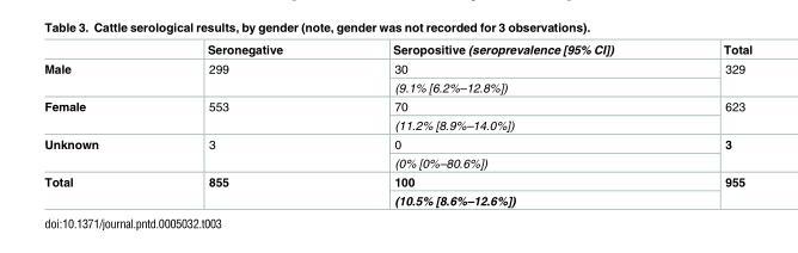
<table><thead><tr><td></td><td>Seronegative</td><td>Seropositive (seroprevalence [95% CI])</td><td>Total</td></tr></thead><tbody><tr><td rowspan="2">Male</td><td rowspan="2">299</td><td>30</td><td rowspan="2">329</td></tr><tr><td>(9.1% [6.2%–12.8%])</td></tr><tr><td rowspan="2">Female</td><td rowspan="2">553</td><td>70</td><td rowspan="2">623</td></tr><tr><td>(11.2% [8.9%–14.0%])</td></tr><tr><td rowspan="2">Unknown</td><td rowspan="2">3</td><td>0</td><td rowspan="2">3</td></tr><tr><td>(0% [0%–80.6%])</td></tr><tr><td rowspan="2">Total</td><td rowspan="2">855</td><td>100</td><td rowspan="2">955</td></tr><tr><td>(10.5% [8.6%–12.6%])</td></tr></tbody></table>